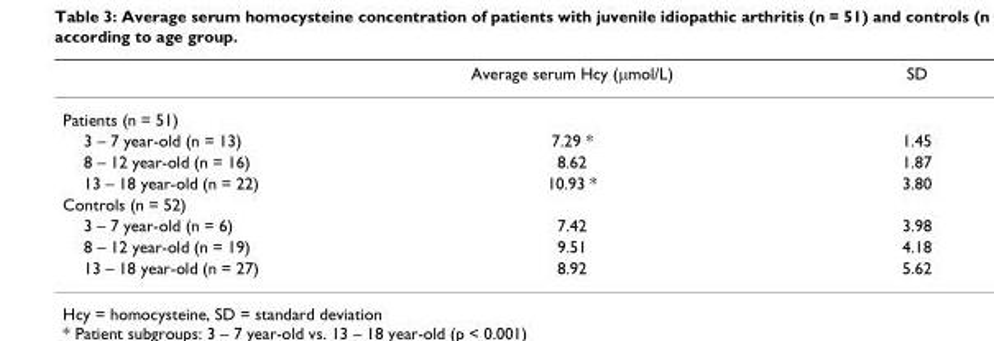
<table><thead><tr><td></td><td>Average serum Hcy (µmol/L)</td><td>SD</td></tr></thead><tbody><tr><td colspan="3">Patients (n = 51)</td></tr><tr><td>3 – 7 year-old (n = 13)</td><td>7.29 *</td><td>1.45</td></tr><tr><td>8 – 12 year-old (n = 16)</td><td>8.62</td><td>1.87</td></tr><tr><td>13 – 18 year-old (n = 22)</td><td>10.93 *</td><td>3.80</td></tr><tr><td colspan="3">Controls (n = 52)</td></tr><tr><td>3 – 7 year-old (n = 6)</td><td>7.42</td><td>3.98</td></tr><tr><td>8 – 12 year-old (n = 19)</td><td>9.51</td><td>4.18</td></tr><tr><td>13 – 18 year-old (n = 27)</td><td>8.92</td><td>5.62</td></tr></tbody></table>